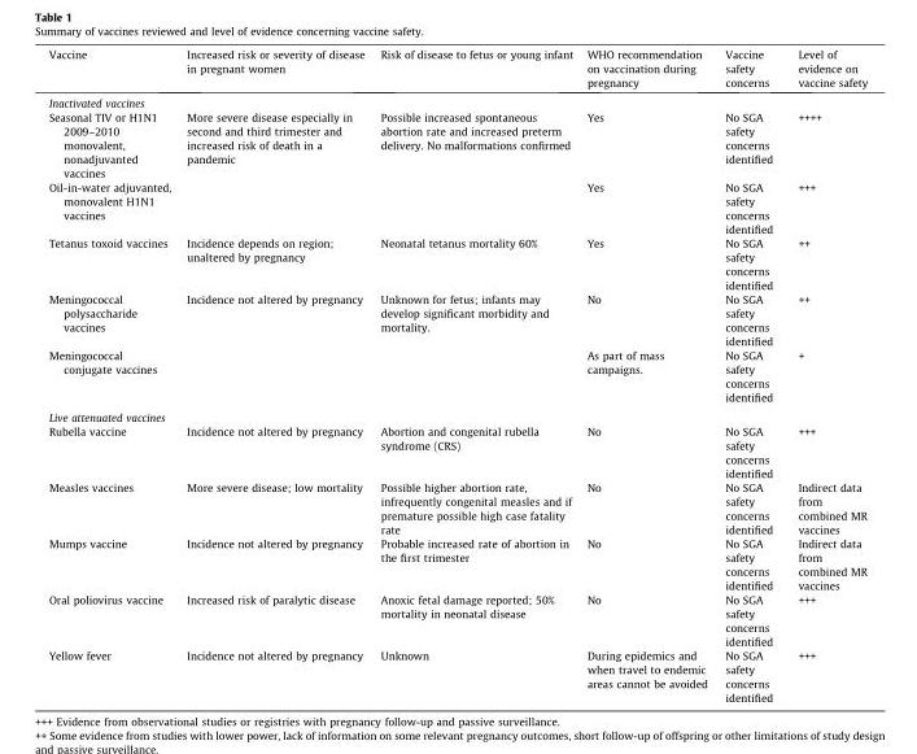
<table><thead><tr><td>Vaccine</td><td>Increased risk or severity of disease in pregnant women</td><td>Risk of disease to fetus or young infant</td><td>WHO recommendation on vaccination during pregnancy</td><td>Vaccine safety concerns</td><td>Level of evidence on vaccine safety</td></tr></thead><tbody><tr><td colspan="6">Inactivated vaccines</td></tr><tr><td>Seasonal TIV or H1N1 2009–2010 monovalent, nonadjuvanted vaccines</td><td rowspan="2">More severe disease especially in second and third trimester and increased risk of death in a pandemic</td><td rowspan="2">Possible increased spontaneous abortion rate and increased preterm delivery. No malformations confirmed</td><td>Yes</td><td>No SGA safety concerns identified</td><td>++++</td></tr><tr><td>Oil-in-water adjuvanted, monovalent H1N1 vaccines</td><td>Yes</td><td>No SGA safety concerns identified</td><td>+++</td></tr><tr><td>Tetanus toxoid vaccines</td><td>Incidence depends on region; unaltered by pregnancy</td><td>Neonatal tetanus mortality 60%</td><td>Yes</td><td>No SGA safety concerns identified</td><td>++</td></tr><tr><td>Meningococcal polysaccharide vaccines</td><td>Incidence not altered by pregnancy</td><td>Unknown for fetus; infants may develop significant morbidity and mortality.</td><td>No</td><td>No SGA safety concerns identified</td><td>++</td></tr><tr><td>Meningococcal conjugate vaccines</td><td></td><td></td><td>As part of mass campaigns.</td><td>No SGA safety concerns identified</td><td>+</td></tr><tr><td colspan="6">Live attenuated vaccines</td></tr><tr><td>Rubella vaccine</td><td>Incidence not altered by pregnancy</td><td>Abortion and congenital rubella syndrome (CRS)</td><td>No</td><td>No SGA safety concerns identified</td><td>+++</td></tr><tr><td>Measles vaccines</td><td>More severe disease; low mortality</td><td>Possible higher abortion rate, infrequently congenital measles and if premature possible high case fatality rate</td><td>No</td><td>No SGA safety concerns identified</td><td>Indirect data from combined MR vaccines</td></tr><tr><td>Mumps vaccine</td><td>Incidence not altered by pregnancy</td><td>Probable increased rate of abortion in the first trimester</td><td>No</td><td>No SGA safety concerns identified</td><td>Indirect data from combined MR vaccines</td></tr><tr><td>Oral poliovirus vaccine</td><td>Increased risk of paralytic disease</td><td>Anoxic fetal damage reported; 50% mortality in neonatal disease</td><td>No</td><td>No SGA safety concerns identified</td><td>+++</td></tr><tr><td>Yellow fever</td><td>Incidence not altered by pregnancy</td><td>Unknown</td><td>During epidemics and when travel to endemic areas cannot be avoided</td><td>No SGA safety concerns identified</td><td>+++</td></tr></tbody></table>